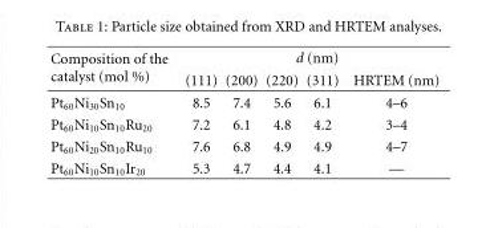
<table><thead><tr><td rowspan="2">Composition of the catalyst (mol %)</td><td colspan="5">d (nm)</td></tr><tr><td>(111)</td><td>(200)</td><td>(220)</td><td>(311)</td><td>HRTEM (nm)</td></tr></thead><tbody><tr><td>Pt<sub>60</sub>Ni<sub>30</sub>Sn<sub>10</sub></td><td>8.5</td><td>7.4</td><td>5.6</td><td>6.1</td><td>4–6</td></tr><tr><td>Pt<sub>60</sub>Ni<sub>10</sub>Sn<sub>10</sub>Ru<sub>20</sub></td><td>7.2</td><td>6.1</td><td>4.8</td><td>4.2</td><td>3–4</td></tr><tr><td>Pt<sub>60</sub>Ni<sub>20</sub>Sn<sub>10</sub>Ru<sub>10</sub></td><td>7.6</td><td>6.8</td><td>4.9</td><td>4.9</td><td>4–7</td></tr><tr><td>Pt<sub>60</sub>Ni<sub>10</sub>Sn<sub>10</sub>Ir<sub>20</sub></td><td>5.3</td><td>4.7</td><td>4.4</td><td>4.1</td><td>—</td></tr></tbody></table>